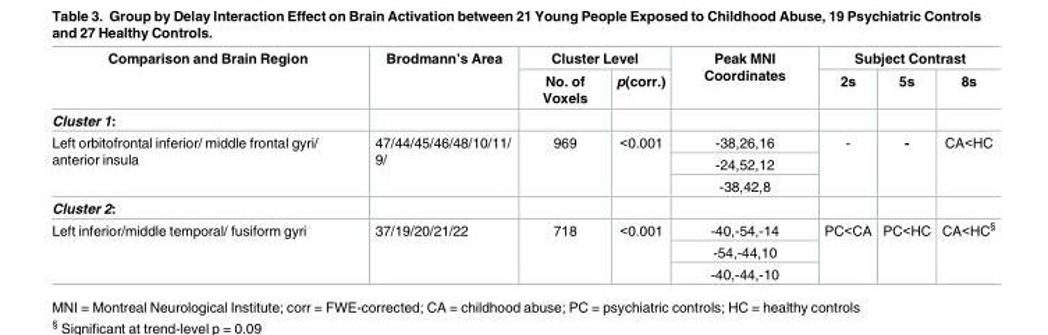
<table><thead><tr><td rowspan="2">Comparison and Brain Region</td><td rowspan="2">Brodmann’s Area</td><td colspan="2">Cluster Level</td><td rowspan="2">Peak MNI Coordinates</td><td colspan="3">Subject Contrast</td></tr><tr><td>No. of Voxels</td><td>p(corr.)</td><td>2s</td><td>5s</td><td>8s</td></tr></thead><tbody><tr><td colspan="8">Cluster 1:</td></tr><tr><td rowspan="3">Left orbitofrontal inferior/ middle frontal gyri/ anterior insula</td><td rowspan="3">47/44/45/46/48/10/11/ 9/</td><td rowspan="3">969</td><td rowspan="3">&lt;0.001</td><td>-38,26,16</td><td rowspan="3">-</td><td rowspan="3">-</td><td rowspan="3">CA&lt;HC</td></tr><tr><td>-24,52,12</td></tr><tr><td>-38,42,8</td></tr><tr><td colspan="8">Cluster 2:</td></tr><tr><td rowspan="3">Left inferior/middle temporal/ fusiform gyri</td><td rowspan="3">37/19/20/21/22</td><td rowspan="3">718</td><td rowspan="3">&lt;0.001</td><td>-40,-54,-14</td><td rowspan="3">PC&lt;CA</td><td rowspan="3">PC&lt;HC</td><td rowspan="3">CA&lt;HC<sup>§</sup></td></tr><tr><td>-54,-44,10</td></tr><tr><td>-40,-44,-10</td></tr></tbody></table>